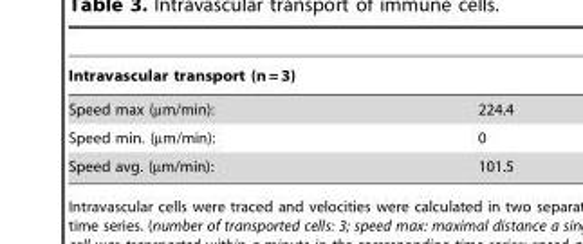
<table><thead><tr><td colspan="2">Intravascular transport (n = 3)</td></tr><tr><td>Speed max (µm/min):</td><td>224.4</td></tr></thead><tbody><tr><td>Speed min. (µm/min):</td><td>0</td></tr><tr><td>Speed avg. (µm/min):</td><td>101.5</td></tr></tbody></table>